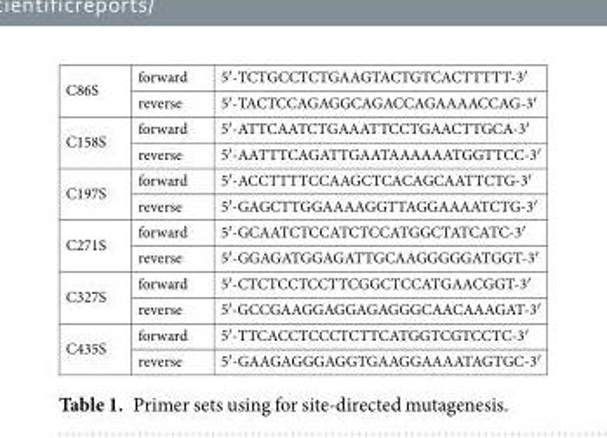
<table><tbody><tr><td rowspan="2">C86S</td><td>forward</td><td>5′-TCTGCCTCTGAAGTACTGTCACTTTTT-3′</td></tr><tr><td>reverse</td><td>5′-TACTCCAGAGGCAGACCAGAAAACCAG-3′</td></tr><tr><td rowspan="2">C158S</td><td>forward</td><td>5′-ATTCAATCTGAAATTCCTGAACTTGCA-3′</td></tr><tr><td>reverse</td><td>5′-AATTTCAGATTGAATAAAAAATGGTTCC-3′</td></tr><tr><td rowspan="2">C197S</td><td>forward</td><td>5′-ACCTTTTCCAAGCTCACAGCAATTCTG-3′</td></tr><tr><td>reverse</td><td>5′-GAGCTTGGAAAAGGTTAGGAAAATCTG-3′</td></tr><tr><td rowspan="2">C271S</td><td>forward</td><td>5′-GCAATCTCCATCTCCATGGCTATCATC-3′</td></tr><tr><td>reverse</td><td>5′-GGAGATGGAGATTGCAAGGGGGATGGT-3′</td></tr><tr><td rowspan="2">C327S</td><td>forward</td><td>5′-CTCTCCTCCTTCGGCTCCATGAACGGT-3′</td></tr><tr><td>reverse</td><td>5′-GCCGAAGGAGGAGAGGGCAACAAAGAT-3′</td></tr><tr><td rowspan="2">C435S</td><td>forward</td><td>5′-TTCACCTCCCTCTTCATGGTCGTCCTC-3′</td></tr><tr><td>reverse</td><td>5′-GAAGAGGGAGGTGAAGGAAAATAGTGC-3′</td></tr></tbody></table>